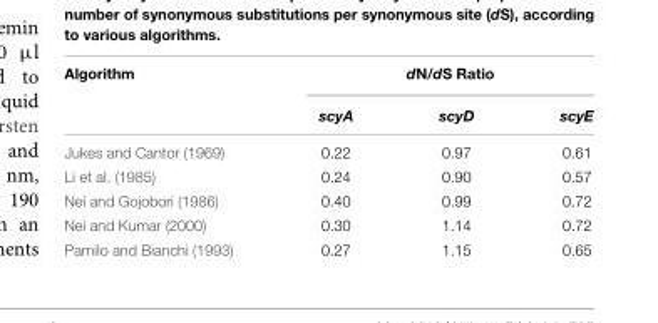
<table><thead><tr><td rowspan="2">Algorithm</td><td colspan="3">dN/dS Ratio</td></tr><tr><td>scyA</td><td>scyD</td><td>scyE</td></tr></thead><tbody><tr><td>Jukes and Cantor (1969)</td><td>0.22</td><td>0.97</td><td>0.61</td></tr><tr><td>Li et al. (1985)</td><td>0.24</td><td>0.90</td><td>0.57</td></tr><tr><td>Nei and Gojobori (1986)</td><td>0.40</td><td>0.99</td><td>0.72</td></tr><tr><td>Nei and Kumar (2000)</td><td>0.30</td><td>1.14</td><td>0.72</td></tr><tr><td>Pamilo and Bianchi (1993)</td><td>0.27</td><td>1.15</td><td>0.65</td></tr></tbody></table>